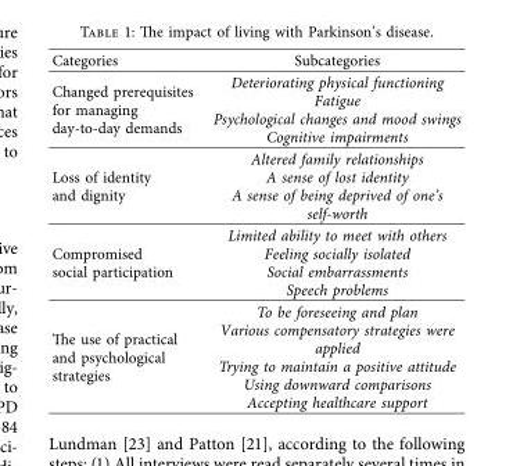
<table><thead><tr><td>Categories</td><td>Subcategories</td></tr></thead><tbody><tr><td>Changed prerequisites for managing day-to-day demands</td><td>Deteriorating physical functioning Fatigue Psychological changes and mood swings Cognitive impairments</td></tr><tr><td>Loss of identity and dignity</td><td>Altered family relationships A sense of lost identity A sense of being deprived of one’s self-worth</td></tr><tr><td>Compromised social participation</td><td>Limited ability to meet with others Feeling socially isolated Social embarrassments Speech problems</td></tr><tr><td>Te use of practical and psychological strategies</td><td>To be foreseeing and plan Various compensatory strategies were applied Trying to maintain a positive attitude Using downward comparisons Accepting healthcare support</td></tr></tbody></table>